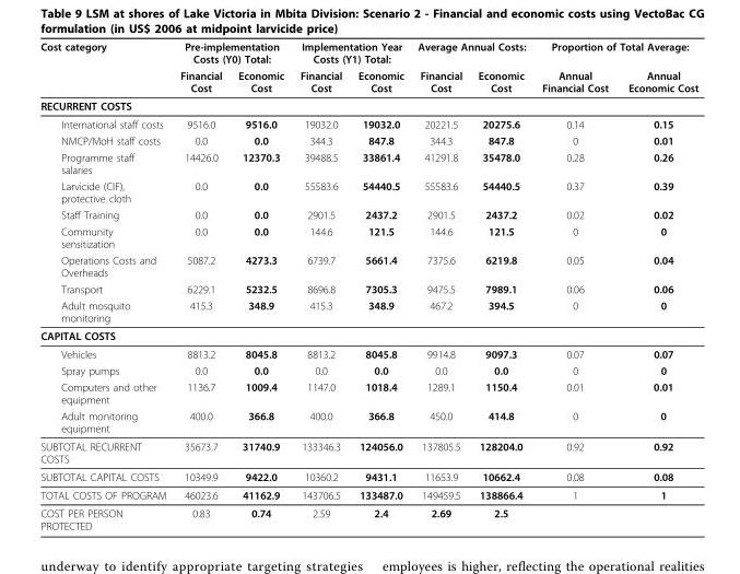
<table><thead><tr><td rowspan="2">Cost category</td><td colspan="2">Pre-implementation Costs (Y0) Total:</td><td colspan="2">Implementation Year Costs (Y1) Total:</td><td colspan="2">Average Annual Costs:</td><td colspan="2">Proportion of Total Average:</td></tr><tr><td>Financial Cost</td><td>Economic Cost</td><td>Financial Cost</td><td>Economic Cost</td><td>Financial Cost</td><td>Economic Cost</td><td>Annual Financial Cost</td><td>Annual Economic Cost</td></tr></thead><tbody><tr><td colspan="9">RECURRENT COSTS</td></tr><tr><td>International staff costs</td><td>9516.0</td><td>9516.0</td><td>19032.0</td><td>19032.0</td><td>20221.5</td><td>20275.6</td><td>0.14</td><td>0.15</td></tr><tr><td>NMCP/MoH staff costs</td><td>0.0</td><td>0.0</td><td>344.3</td><td>847.8</td><td>344.3</td><td>847.8</td><td>0</td><td>0.01</td></tr><tr><td>Programme staff salaries</td><td>14426.0</td><td>12370.3</td><td>39488.5</td><td>33861.4</td><td>41291.8</td><td>35478.0</td><td>0.28</td><td>0.26</td></tr><tr><td>Larvicide (CIF), protective cloth</td><td>0.0</td><td>0.0</td><td>55583.6</td><td>54440.5</td><td>55583.6</td><td>54440.5</td><td>0.37</td><td>0.39</td></tr><tr><td>Staff Training</td><td>0.0</td><td>0.0</td><td>2901.5</td><td>2437.2</td><td>2901.5</td><td>2437.2</td><td>0.02</td><td>0.02</td></tr><tr><td>Community sensitization</td><td>0.0</td><td>0.0</td><td>144.6</td><td>121.5</td><td>144.6</td><td>121.5</td><td>0</td><td>0</td></tr><tr><td>Operations Costs and Overheads</td><td>5087.2</td><td>4273.3</td><td>6739.7</td><td>5661.4</td><td>7375.6</td><td>6219.8</td><td>0.05</td><td>0.04</td></tr><tr><td>Transport</td><td>6229.1</td><td>5232.5</td><td>8696.8</td><td>7305.3</td><td>9475.5</td><td>7989.1</td><td>0.06</td><td>0.06</td></tr><tr><td>Adult mosquito monitoring</td><td>415.3</td><td>348.9</td><td>415.3</td><td>348.9</td><td>467.2</td><td>394.5</td><td>0</td><td>0</td></tr><tr><td colspan="9">CAPITAL COSTS</td></tr><tr><td>Vehicles</td><td>8813.2</td><td>8045.8</td><td>8813.2</td><td>8045.8</td><td>9914.8</td><td>9097.3</td><td>0.07</td><td>0.07</td></tr><tr><td>Spray pumps</td><td>0.0</td><td>0.0</td><td>0.0</td><td>0.0</td><td>0.0</td><td>0.0</td><td>0</td><td>0</td></tr><tr><td>Computers and other equipment</td><td>1136.7</td><td>1009.4</td><td>1147.0</td><td>1018.4</td><td>1289.1</td><td>1150.4</td><td>0.01</td><td>0.01</td></tr><tr><td>Adult monitoring equipment</td><td>400.0</td><td>366.8</td><td>400.0</td><td>366.8</td><td>450.0</td><td>414.8</td><td>0</td><td>0</td></tr><tr><td>SUBTOTAL RECURRENT COSTS</td><td>35673.7</td><td>31740.9</td><td>133346.3</td><td>124056.0</td><td>137805.5</td><td>128204.0</td><td>0.92</td><td>0.92</td></tr><tr><td>SUBTOTAL CAPITAL COSTS</td><td>10349.9</td><td>9422.0</td><td>10360.2</td><td>9431.1</td><td>11653.9</td><td>10662.4</td><td>0.08</td><td>0.08</td></tr><tr><td>TOTAL COSTS OF PROGRAM</td><td>46023.6</td><td>41162.9</td><td>143706.5</td><td>133487.0</td><td>149459.5</td><td>138866.4</td><td>1</td><td>1</td></tr><tr><td>COST PER PERSON PROTECTED</td><td>0.83</td><td>0.74</td><td>2.59</td><td>2.4</td><td>2.69</td><td>2.5</td><td></td><td></td></tr></tbody></table>